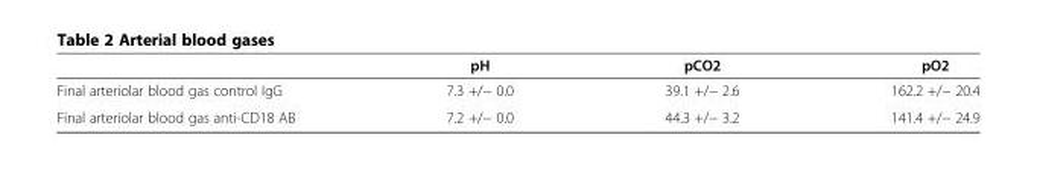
<table><thead><tr><td></td><td>pH</td><td>pCO2</td><td>pO2</td></tr></thead><tbody><tr><td>Final arteriolar blood gas control IgG</td><td>7.3 +/− 0.0</td><td>39.1 +/− 2.6</td><td>162.2 +/− 20.4</td></tr><tr><td>Final arteriolar blood gas anti-CD18 AB</td><td>7.2 +/− 0.0</td><td>44.3 +/− 3.2</td><td>141.4 +/− 24.9</td></tr></tbody></table>